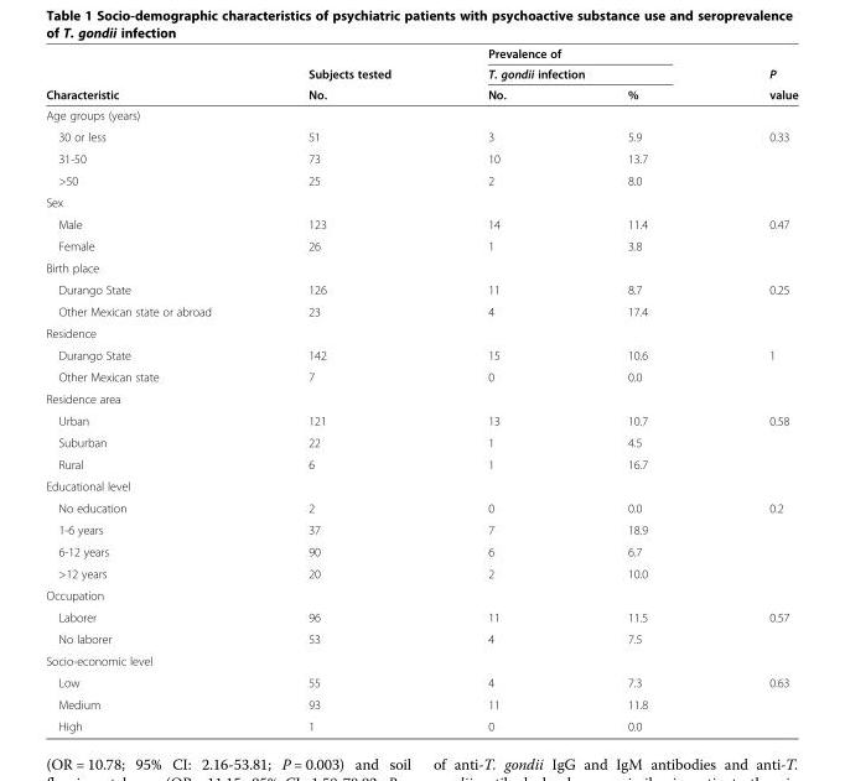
<table><thead><tr><td rowspan="3">Characteristic</td><td rowspan="3">Subjects tested No.</td><td rowspan="2" colspan="2">Prevalence of T. gondii infection</td><td rowspan="3">P value</td></tr><tr></tr><tr><td>No.</td><td>%</td></tr></thead><tbody><tr><td colspan="5">Age groups (years)</td></tr><tr><td>30 or less</td><td>51</td><td>3</td><td>5.9</td><td>0.33</td></tr><tr><td>31-50</td><td>73</td><td>10</td><td>13.7</td><td></td></tr><tr><td>&gt;50</td><td>25</td><td>2</td><td>8.0</td><td></td></tr><tr><td colspan="5">Sex</td></tr><tr><td>Male</td><td>123</td><td>14</td><td>11.4</td><td>0.47</td></tr><tr><td>Female</td><td>26</td><td>1</td><td>3.8</td><td></td></tr><tr><td colspan="5">Birth place</td></tr><tr><td>Durango State</td><td>126</td><td>11</td><td>8.7</td><td>0.25</td></tr><tr><td>Other Mexican state or abroad</td><td>23</td><td>4</td><td>17.4</td><td></td></tr><tr><td colspan="5">Residence</td></tr><tr><td>Durango State</td><td>142</td><td>15</td><td>10.6</td><td>1</td></tr><tr><td>Other Mexican state</td><td>7</td><td>0</td><td>0.0</td><td></td></tr><tr><td colspan="5">Residence area</td></tr><tr><td>Urban</td><td>121</td><td>13</td><td>10.7</td><td>0.58</td></tr><tr><td>Suburban</td><td>22</td><td>1</td><td>4.5</td><td></td></tr><tr><td>Rural</td><td>6</td><td>1</td><td>16.7</td><td></td></tr><tr><td colspan="5">Educational level</td></tr><tr><td>No education</td><td>2</td><td>0</td><td>0.0</td><td>0.2</td></tr><tr><td>1-6 years</td><td>37</td><td>7</td><td>18.9</td><td></td></tr><tr><td>6-12 years</td><td>90</td><td>6</td><td>6.7</td><td></td></tr><tr><td>&gt;12 years</td><td>20</td><td>2</td><td>10.0</td><td></td></tr><tr><td colspan="5">Occupation</td></tr><tr><td>Laborer</td><td>96</td><td>11</td><td>11.5</td><td>0.57</td></tr><tr><td>No laborer</td><td>53</td><td>4</td><td>7.5</td><td></td></tr><tr><td colspan="5">Socio-economic level</td></tr><tr><td>Low</td><td>55</td><td>4</td><td>7.3</td><td>0.63</td></tr><tr><td>Medium</td><td>93</td><td>11</td><td>11.8</td><td></td></tr><tr><td>High</td><td>1</td><td>0</td><td>0.0</td><td></td></tr></tbody></table>